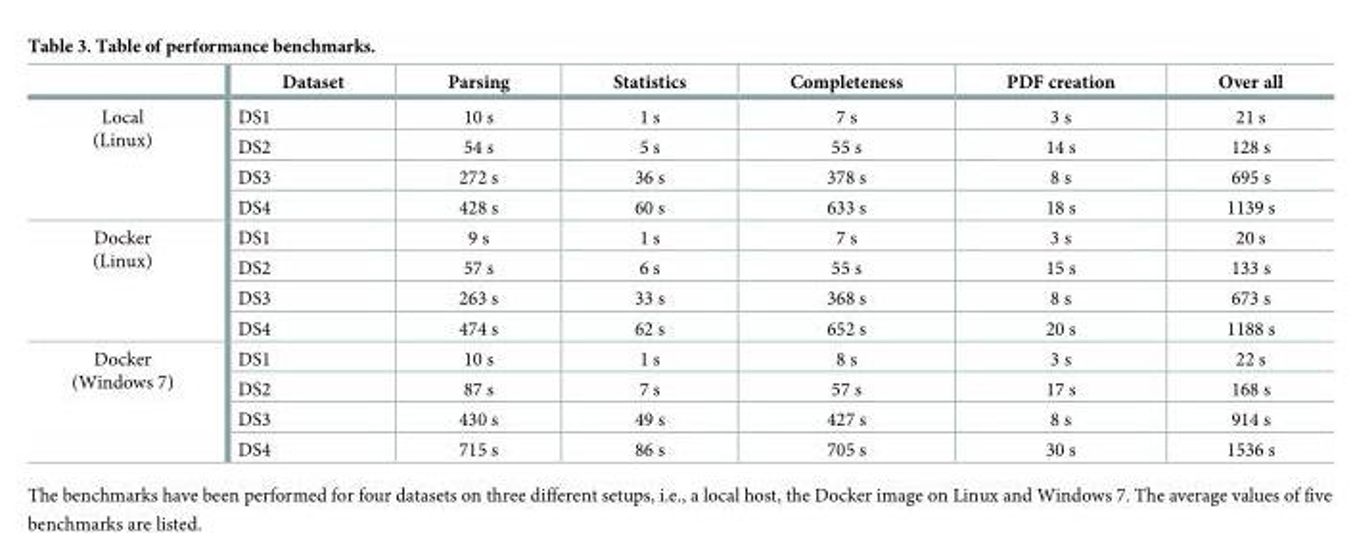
<table><thead><tr><td></td><td>Dataset</td><td>Parsing</td><td>Statistics</td><td>Completeness</td><td>PDF creation</td><td>Over all</td></tr></thead><tbody><tr><td rowspan="4">Local (Linux)</td><td>DS1</td><td>10 s</td><td>1 s</td><td>7 s</td><td>3 s</td><td>21 s</td></tr><tr><td>DS2</td><td>54 s</td><td>5 s</td><td>55 s</td><td>14 s</td><td>128 s</td></tr><tr><td>DS3</td><td>272 s</td><td>36 s</td><td>378 s</td><td>8 s</td><td>695 s</td></tr><tr><td>DS4</td><td>428 s</td><td>60 s</td><td>633 s</td><td>18 s</td><td>1139 s</td></tr><tr><td rowspan="4">Docker (Linux)</td><td>DS1</td><td>9 s</td><td>1 s</td><td>7 s</td><td>3 s</td><td>20 s</td></tr><tr><td>DS2</td><td>57 s</td><td>6 s</td><td>55 s</td><td>15 s</td><td>133 s</td></tr><tr><td>DS3</td><td>263 s</td><td>33 s</td><td>368 s</td><td>8 s</td><td>673 s</td></tr><tr><td>DS4</td><td>474 s</td><td>62 s</td><td>652 s</td><td>20 s</td><td>1188 s</td></tr><tr><td rowspan="4">Docker (Windows 7)</td><td>DS1</td><td>10 s</td><td>1 s</td><td>8 s</td><td>3 s</td><td>22 s</td></tr><tr><td>DS2</td><td>87 s</td><td>7 s</td><td>57 s</td><td>17 s</td><td>168 s</td></tr><tr><td>DS3</td><td>430 s</td><td>49 s</td><td>427 s</td><td>8 s</td><td>914 s</td></tr><tr><td>DS4</td><td>715 s</td><td>86 s</td><td>705 s</td><td>30 s</td><td>1536 s</td></tr></tbody></table>